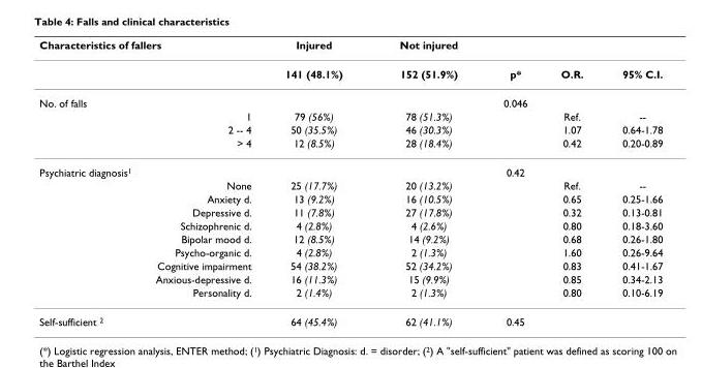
<table><thead><tr><td>Characteristics of fallers</td><td>Injured</td><td>Not injured</td><td></td><td></td><td></td></tr></thead><tbody><tr><td></td><td>141 (48.1%)</td><td>152 (51.9%)</td><td>p*</td><td>O.R.</td><td>95% C.I.</td></tr><tr><td>No. of falls</td><td></td><td></td><td>0.046</td><td></td><td></td></tr><tr><td>1</td><td>79 (56%)</td><td>78 (51.3%)</td><td></td><td>Ref.</td><td>--</td></tr><tr><td>2 -- 4</td><td>50 (35.5%)</td><td>46 (30.3%)</td><td></td><td>1.07</td><td>0.64-1.78</td></tr><tr><td>&gt; 4</td><td>12 (8.5%)</td><td>28 (18.4%)</td><td></td><td>0.42</td><td>0.20-0.89</td></tr><tr><td>Psychiatric diagnosis<sup>1</sup></td><td></td><td></td><td>0.42</td><td></td><td></td></tr><tr><td>None</td><td>25 (17.7%)</td><td>20 (13.2%)</td><td></td><td>Ref.</td><td>--</td></tr><tr><td>Anxiety d.</td><td>13 (9.2%)</td><td>16 (10.5%)</td><td></td><td>0.65</td><td>0.25-1.66</td></tr><tr><td>Depressive d.</td><td>11 (7.8%)</td><td>27 (17.8%)</td><td></td><td>0.32</td><td>0.13-0.81</td></tr><tr><td>Schizophrenic d.</td><td>4 (2.8%)</td><td>4 (2.6%)</td><td></td><td>0.80</td><td>0.18-3.60</td></tr><tr><td>Bipolar mood d.</td><td>12 (8.5%)</td><td>14 (9.2%)</td><td></td><td>0.68</td><td>0.26-1.80</td></tr><tr><td>Psycho-organic d.</td><td>4 (2.8%)</td><td>2 (1.3%)</td><td></td><td>1.60</td><td>0.26-9.64</td></tr><tr><td>Cognitive impairment</td><td>54 (38.2%)</td><td>52 (34.2%)</td><td></td><td>0.83</td><td>0.41-1.67</td></tr><tr><td>Anxious-depressive d.</td><td>16 (11.3%)</td><td>15 (9.9%)</td><td></td><td>0.85</td><td>0.34-2.13</td></tr><tr><td>Personality d.</td><td>2 (1.4%)</td><td>2 (1.3%)</td><td></td><td>0.80</td><td>0.10-6.19</td></tr><tr><td>Self-sufficient <sup>2</sup></td><td>64 (45.4%)</td><td>62 (41.1%)</td><td>0.45</td><td></td><td></td></tr></tbody></table>